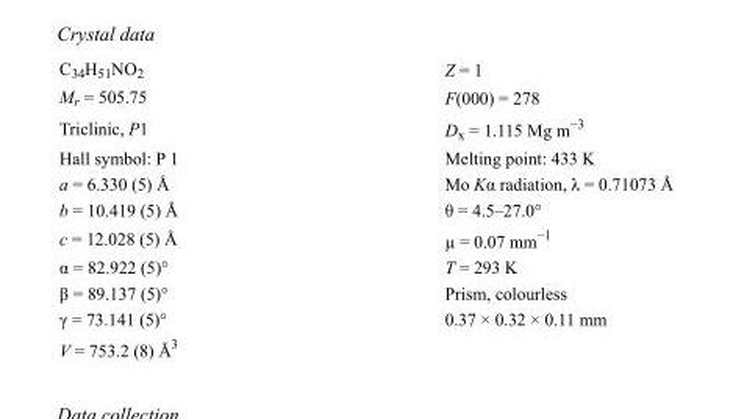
<table><tbody><tr><td>C<sub>34</sub>H<sub>51</sub>NO<sub>2</sub></td><td>Z = 1</td></tr><tr><td>M<sub>r</sub> = 505.75</td><td>F(000) = 278</td></tr><tr><td>Triclinic, P1</td><td>D<sub>x</sub> = 1.115 Mg m<sup>−3</sup></td></tr><tr><td>Hall symbol: P 1</td><td>Melting point: 433 K</td></tr><tr><td>a = 6.330 (5) Å</td><td>Mo Kα radiation, λ = 0.71073 Å</td></tr><tr><td>b = 10.419 (5) Å</td><td>θ = 4.5–27.0°</td></tr><tr><td>c = 12.028 (5) Å</td><td>µ = 0.07 mm<sup>−1</sup></td></tr><tr><td>α = 82.922 (5)°</td><td>T = 293 K</td></tr><tr><td>β = 89.137 (5)°</td><td>Prism, colourless</td></tr><tr><td>γ = 73.141 (5)°</td><td>0.37 × 0.32 × 0.11 mm</td></tr><tr><td>V = 753.2 (8) Å<sup>3</sup></td><td></td></tr></tbody></table>